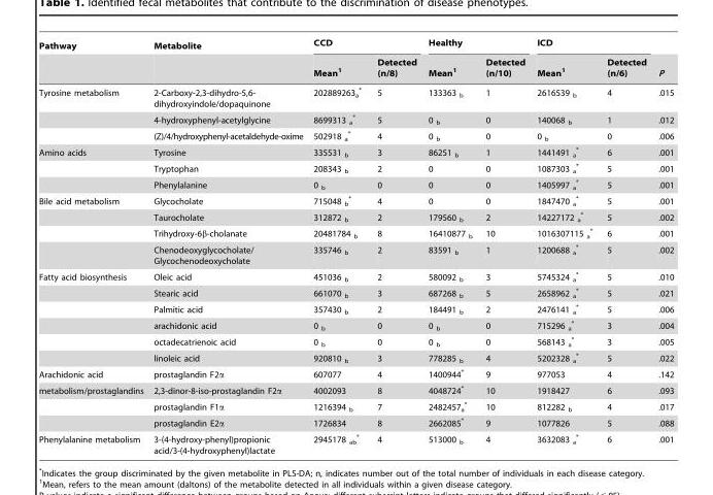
<table><thead><tr><td rowspan="2">Pathway</td><td rowspan="2">Metabolite</td><td colspan="2">CCD</td><td colspan="2">Healthy</td><td colspan="2">ICD</td><td rowspan="2">P</td></tr><tr><td>Mean<sup>1</sup></td><td>Detected (n/8)</td><td>Mean<sup>1</sup></td><td>Detected (n/10)</td><td>Mean<sup>1</sup></td><td>Detected (n/6)</td></tr></thead><tbody><tr><td rowspan="3">Tyrosine metabolism</td><td>2-Carboxy-2,3-dihydro-5,6- dihydroxyindole/dopaquinone</td><td>202889263<sub>a</sub> *</td><td>5</td><td>133363 <sub>b</sub></td><td>1</td><td>2616539 <sub>b</sub></td><td>4</td><td>.015</td></tr><tr><td>4-hydroxyphenyl-acetylglycine</td><td>8699313 <sub>a</sub> *</td><td>5</td><td>0 <sub>b</sub></td><td>0</td><td>140068 <sub>b</sub></td><td>1</td><td>.012</td></tr><tr><td>(Z)/4/hydroxyphenyl-acetaldehyde-oxime</td><td>502918 <sub>a</sub> *</td><td>4</td><td>0 <sub>b</sub></td><td>0</td><td>0 <sub>b</sub></td><td>0</td><td>.006</td></tr><tr><td rowspan="3">Amino acids</td><td>Tyrosine</td><td>335531 <sub>b</sub></td><td>3</td><td>86251 <sub>b</sub></td><td>1</td><td>1441491 <sub>a</sub> *</td><td>6</td><td>.001</td></tr><tr><td>Tryptophan</td><td>208343 <sub>b</sub></td><td>2</td><td>0</td><td>0</td><td>1087303 <sub>a</sub> *</td><td>5</td><td>.001</td></tr><tr><td>Phenylalanine</td><td>0 <sub>b</sub></td><td>0</td><td>0</td><td>0</td><td>1405997 <sub>a</sub> *</td><td>5</td><td>.001</td></tr><tr><td rowspan="4">Bile acid metabolism</td><td>Glycocholate</td><td>715048 <sub>b</sub> *</td><td>4</td><td>0</td><td>0</td><td>1847470 <sub>a</sub> *</td><td>5</td><td>.001</td></tr><tr><td>Taurocholate</td><td>312872 <sub>b</sub></td><td>2</td><td>179560 <sub>b</sub></td><td>2</td><td>14227172 <sub>a</sub> *</td><td>5</td><td>.002</td></tr><tr><td>Trihydroxy-6β-cholanate</td><td>20481784 <sub>b</sub></td><td>8</td><td>16410877 <sub>b</sub></td><td>10</td><td>1016307115 <sub>a</sub> *</td><td>6</td><td>.001</td></tr><tr><td>Chenodeoxyglycocholate/ Glycochenodeoxycholate</td><td>335746 <sub>b</sub></td><td>2</td><td>83591 <sub>b</sub></td><td>1</td><td>1200688 <sub>a</sub> *</td><td>5</td><td>.002</td></tr><tr><td rowspan="6">Fatty acid biosynthesis</td><td>Oleic acid</td><td>451036 <sub>b</sub></td><td>2</td><td>580092 <sub>b</sub></td><td>3</td><td>5745324 <sub>a</sub> *</td><td>5</td><td>.010</td></tr><tr><td>Stearic acid</td><td>661070 <sub>b</sub></td><td>3</td><td>687268 <sub>b</sub></td><td>5</td><td>2658962 <sub>a</sub> *</td><td>5</td><td>.021</td></tr><tr><td>Palmitic acid</td><td>357430 <sub>b</sub></td><td>2</td><td>184491 <sub>b</sub></td><td>2</td><td>2476141 <sub>a</sub> *</td><td>5</td><td>.006</td></tr><tr><td>arachidonic acid</td><td>0 <sub>b</sub></td><td>0</td><td>0 <sub>b</sub></td><td>0</td><td>715296 <sub>a</sub> *</td><td>3</td><td>.004</td></tr><tr><td>octadecatrienoic acid</td><td>0 <sub>b</sub></td><td>0</td><td>0 <sub>b</sub></td><td>0</td><td>568143 <sub>a</sub> *</td><td>3</td><td>.005</td></tr><tr><td>linoleic acid</td><td>920810 <sub>b</sub></td><td>3</td><td>778285 <sub>b</sub></td><td>4</td><td>5202328 <sub>a</sub> *</td><td>5</td><td>.022</td></tr><tr><td>Arachidonic acid</td><td>prostaglandin F2α</td><td>607077</td><td>4</td><td>1400944*</td><td>9</td><td>977053</td><td>4</td><td>.142</td></tr><tr><td rowspan="3">metabolism/prostaglandins</td><td>2,3-dinor-8-iso-prostaglandin F2α</td><td>4002093</td><td>8</td><td>4048724*</td><td>10</td><td>1918427</td><td>6</td><td>.093</td></tr><tr><td>prostaglandin F1α</td><td>1216394 <sub>b</sub></td><td>7</td><td>2482457<sub>a</sub> *</td><td>10</td><td>812282 <sub>b</sub></td><td>4</td><td>.017</td></tr><tr><td>prostaglandin E2α</td><td>1726834</td><td>8</td><td>2662085*</td><td>9</td><td>1077826</td><td>5</td><td>.088</td></tr><tr><td>Phenylalanine metabolism</td><td>3-(4-hydroxy-phenyl)propionic acid/3-(4-hydroxyphenyl)lactate</td><td>2945178 <sub>ab</sub> *</td><td>4</td><td>513000 <sub>b</sub></td><td>4</td><td>3632083 <sub>a</sub> *</td><td>6</td><td>.001</td></tr></tbody></table>